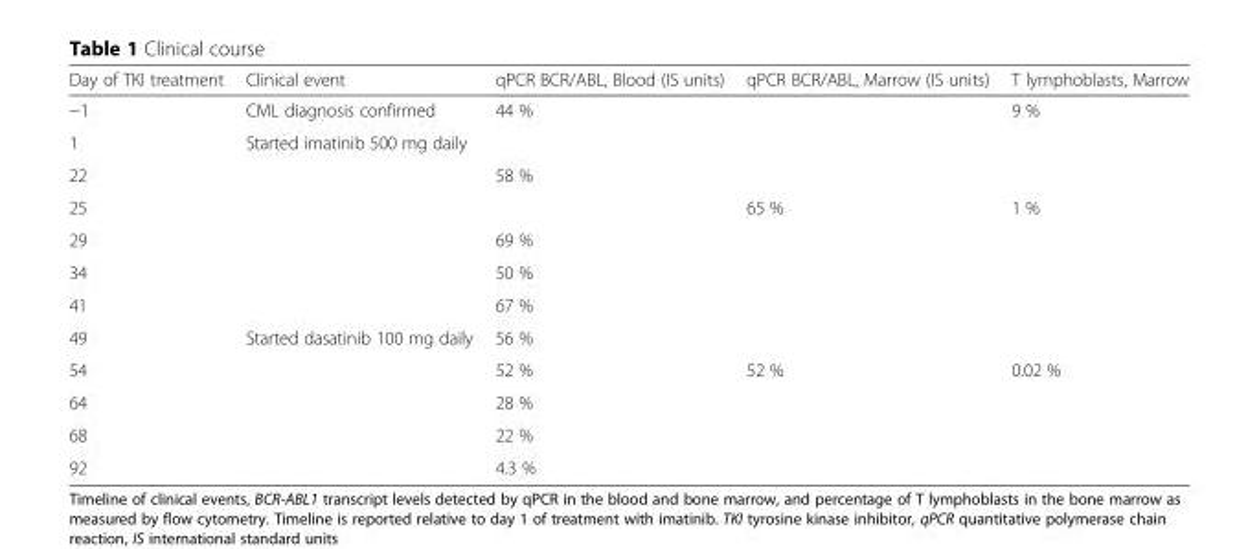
<table><thead><tr><td>Day of TKI treatment</td><td>Clinical event</td><td>qPCR BCR/ABL, Blood (IS units)</td><td>qPCR BCR/ABL, Marrow (IS units)</td><td>T lymphoblasts, Marrow</td></tr></thead><tbody><tr><td>−1</td><td>CML diagnosis confirmed</td><td>44 %</td><td></td><td>9 %</td></tr><tr><td>1</td><td>Started imatinib 500 mg daily</td><td></td><td></td><td></td></tr><tr><td>22</td><td></td><td>58 %</td><td></td><td></td></tr><tr><td>25</td><td></td><td></td><td>65 %</td><td>1 %</td></tr><tr><td>29</td><td></td><td>69 %</td><td></td><td></td></tr><tr><td>34</td><td></td><td>50 %</td><td></td><td></td></tr><tr><td>41</td><td></td><td>67 %</td><td></td><td></td></tr><tr><td>49</td><td>Started dasatinib 100 mg daily</td><td>56 %</td><td></td><td></td></tr><tr><td>54</td><td></td><td>52 %</td><td>52 %</td><td>0.02 %</td></tr><tr><td>64</td><td></td><td>28 %</td><td></td><td></td></tr><tr><td>68</td><td></td><td>22 %</td><td></td><td></td></tr><tr><td>92</td><td></td><td>4.3 %</td><td></td><td></td></tr></tbody></table>